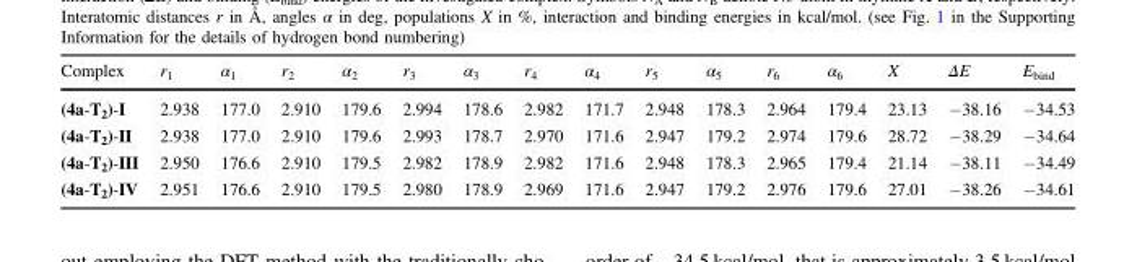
<table><thead><tr><td>Complex</td><td>r<sub>1</sub></td><td>α<sub>1</sub></td><td>r<sub>2</sub></td><td>α<sub>2</sub></td><td>r<sub>3</sub></td><td>α<sub>3</sub></td><td>r<sub>4</sub></td><td>α<sub>4</sub></td><td>r<sub>5</sub></td><td>α<sub>5</sub></td><td>r<sub>6</sub></td><td>α<sub>6</sub></td><td>X</td><td>ΔE</td><td>E<sub>bind</sub></td></tr></thead><tbody><tr><td>(4a-T<sub>2</sub>)-I</td><td>2.938</td><td>177.0</td><td>2.910</td><td>179.6</td><td>2.994</td><td>178.6</td><td>2.982</td><td>171.7</td><td>2.948</td><td>178.3</td><td>2.964</td><td>179.4</td><td>23.13</td><td>−38.16</td><td>−34.53</td></tr><tr><td>(4a-T<sub>2</sub>)-II</td><td>2.938</td><td>177.0</td><td>2.910</td><td>179.6</td><td>2.993</td><td>178.7</td><td>2.970</td><td>171.6</td><td>2.947</td><td>179.2</td><td>2.974</td><td>179.6</td><td>28.72</td><td>−38.29</td><td>−34.64</td></tr><tr><td>(4a-T<sub>2</sub>)-III</td><td>2.950</td><td>176.6</td><td>2.910</td><td>179.5</td><td>2.982</td><td>178.9</td><td>2.982</td><td>171.6</td><td>2.948</td><td>178.3</td><td>2.965</td><td>179.4</td><td>21.14</td><td>−38.11</td><td>−34.49</td></tr><tr><td>(4a-T<sub>2</sub>)-IV</td><td>2.951</td><td>176.6</td><td>2.910</td><td>179.5</td><td>2.980</td><td>178.9</td><td>2.969</td><td>171.6</td><td>2.947</td><td>179.2</td><td>2.976</td><td>179.6</td><td>27.01</td><td>−38.26</td><td>−34.61</td></tr></tbody></table>